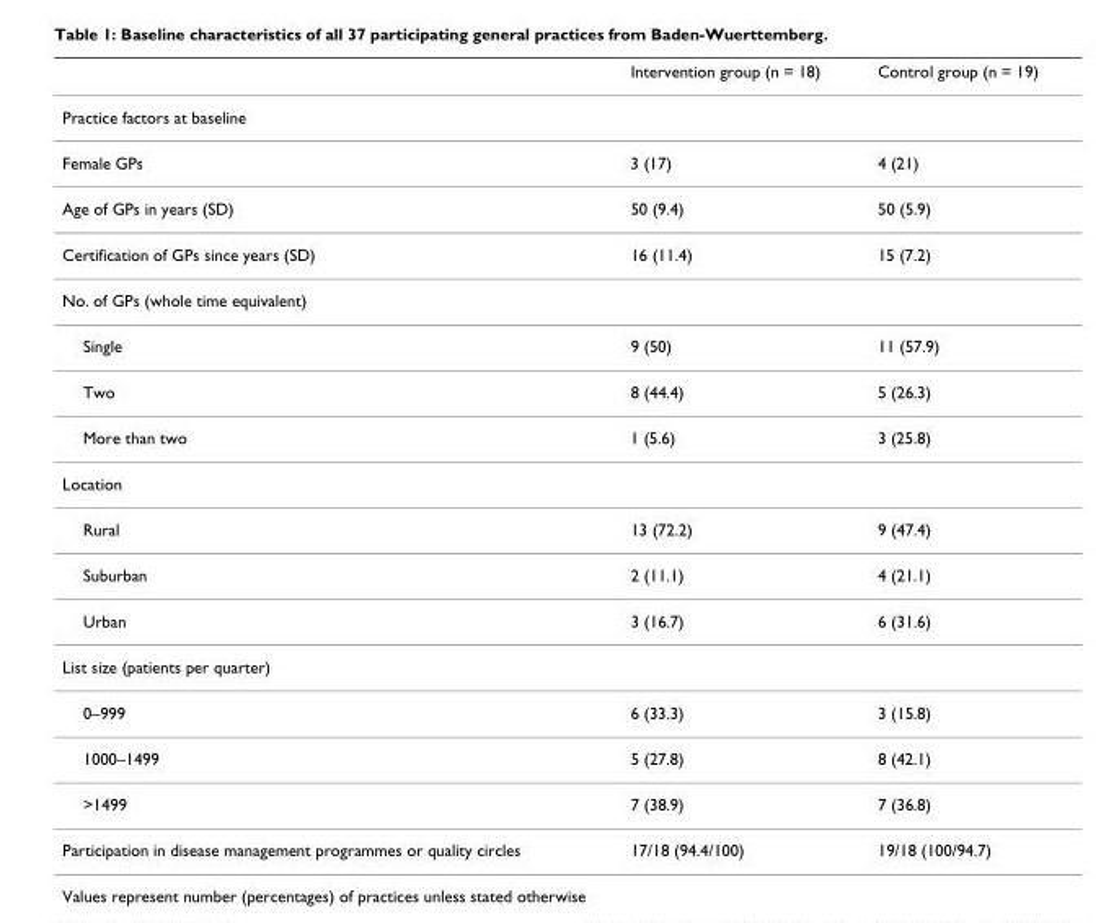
<table><thead><tr><td></td><td>Intervention group (n = 18)</td><td>Control group (n = 19)</td></tr></thead><tbody><tr><td colspan="3">Practice factors at baseline</td></tr><tr><td>Female GPs</td><td>3 (17)</td><td>4 (21)</td></tr><tr><td>Age of GPs in years (SD)</td><td>50 (9.4)</td><td>50 (5.9)</td></tr><tr><td>Certification of GPs since years (SD)</td><td>16 (11.4)</td><td>15 (7.2)</td></tr><tr><td colspan="3">No. of GPs (whole time equivalent)</td></tr><tr><td>Single</td><td>9 (50)</td><td>11 (57.9)</td></tr><tr><td>Two</td><td>8 (44.4)</td><td>5 (26.3)</td></tr><tr><td>More than two</td><td>1 (5.6)</td><td>3 (25.8)</td></tr><tr><td colspan="3">Location</td></tr><tr><td>Rural</td><td>13 (72.2)</td><td>9 (47.4)</td></tr><tr><td>Suburban</td><td>2 (11.1)</td><td>4 (21.1)</td></tr><tr><td>Urban</td><td>3 (16.7)</td><td>6 (31.6)</td></tr><tr><td colspan="3">List size (patients per quarter)</td></tr><tr><td>0–999</td><td>6 (33.3)</td><td>3 (15.8)</td></tr><tr><td>1000–1499</td><td>5 (27.8)</td><td>8 (42.1)</td></tr><tr><td>&gt;1499</td><td>7 (38.9)</td><td>7 (36.8)</td></tr><tr><td>Participation in disease management programmes or quality circles</td><td>17/18 (94.4/100)</td><td>19/18 (100/94.7)</td></tr></tbody></table>